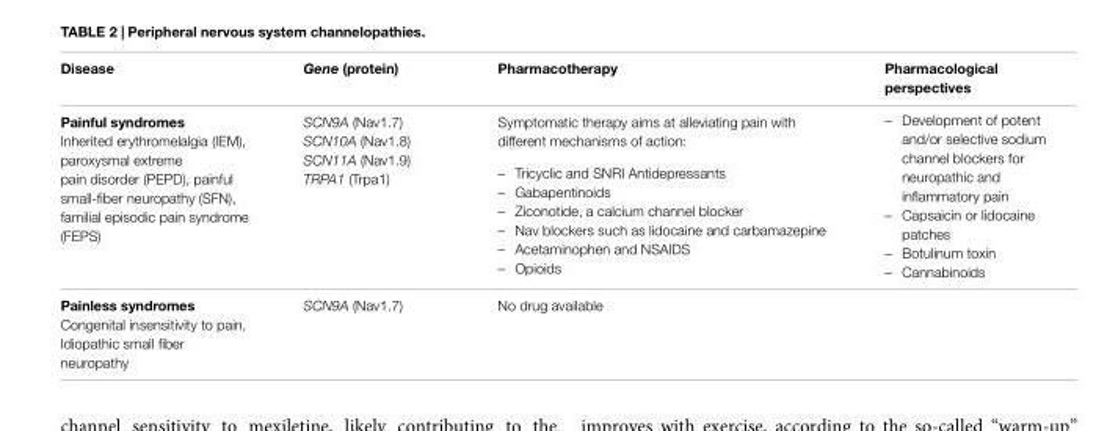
<table><thead><tr><td>Disease</td><td>Gene (protein)</td><td>Pharmacotherapy</td><td>Pharmacological perspectives</td></tr></thead><tbody><tr><td>Painful syndromes Inherited erythromelalgia (IEM), paroxysmal extreme pain disorder (PEPD), painful small-fiber neuropathy (SFN), familial episodic pain syndrome (FEPS)</td><td>SCN9A (Nav1.7) SCN10A (Nav1.8) SCN11A (Nav1.9) TRPA1 (Trpa1)</td><td>Symptomatic therapy aims at alleviating pain with different mechanisms of action: – Tricyclic and SNRI Antidepressants – Gabapentinoids – Ziconotide, a calcium channel blocker – Nav blockers such as lidocaine and carbamazepine – Acetaminophen and NSAIDS – Opioids</td><td>– Development of potent and/or selective sodium channel blockers for neuropathic and inflammatory pain – Capsaicin or lidocaine patches – Botulinum toxin – Cannabinoids</td></tr><tr><td>Painless syndromes Congenital insensitivity to pain, Idiopathic small fiber neuropathy</td><td>SCN9A (Nav1.7)</td><td>No drug available</td><td></td></tr></tbody></table>